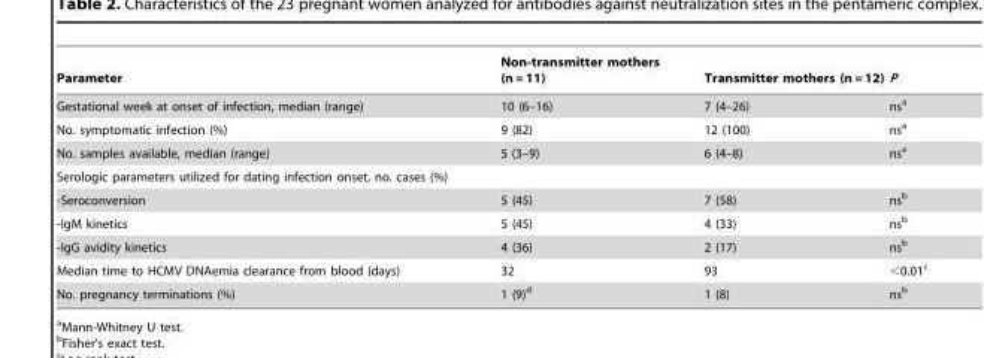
<table><thead><tr><td>Parameter</td><td>Non-transmitter mothers (n = 11)</td><td>Transmitter mothers (n = 12)</td><td>P</td></tr></thead><tbody><tr><td>Gestational week at onset of infection, median (range)</td><td>10 (6–16)</td><td>7 (4–26)</td><td>ns<sup>a</sup></td></tr><tr><td>No. symptomatic infection (%)</td><td>9 (82)</td><td>12 (100)</td><td>ns<sup>a</sup></td></tr><tr><td>No. samples available, median (range)</td><td>5 (3–9)</td><td>6 (4–8)</td><td>ns<sup>a</sup></td></tr><tr><td colspan="4">Serologic parameters utilized for dating infection onset, no. cases (%)</td></tr><tr><td>-Seroconversion</td><td>5 (45)</td><td>7 (58)</td><td>ns<sup>b</sup></td></tr><tr><td>-IgM kinetics</td><td>5 (45)</td><td>4 (33)</td><td>ns<sup>b</sup></td></tr><tr><td>-IgG avidity kinetics</td><td>4 (36)</td><td>2 (17)</td><td>ns<sup>b</sup></td></tr><tr><td>Median time to HCMV DNAemia clearance from blood (days)</td><td>32</td><td>93</td><td>&lt;0.01<sup>c</sup></td></tr><tr><td>No. pregnancy terminations (%)</td><td>1 (9)<sup>d</sup></td><td>1 (8)</td><td>ns<sup>b</sup></td></tr></tbody></table>